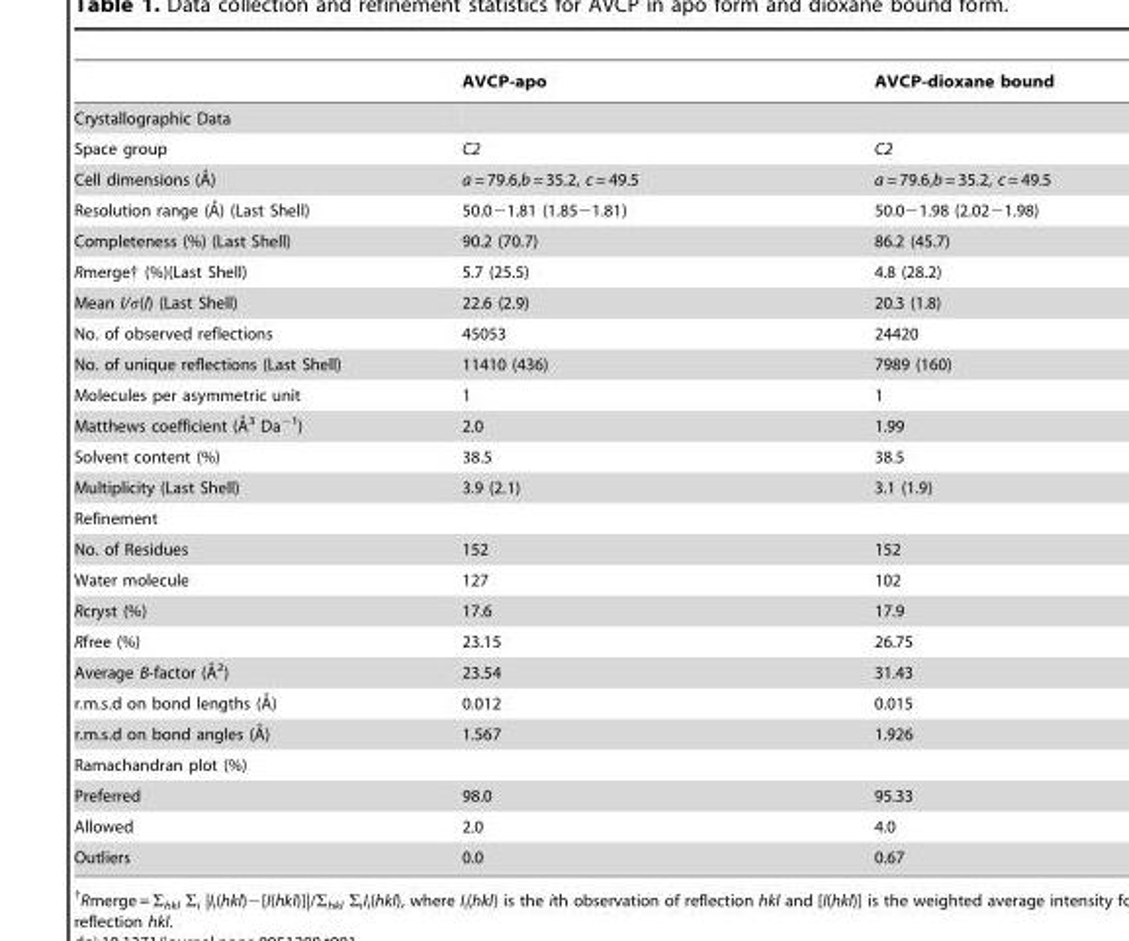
<table><thead><tr><td></td><td>AVCP-apo</td><td>AVCP-dioxane bound</td></tr></thead><tbody><tr><td colspan="3">Crystallographic Data</td></tr><tr><td>Space group</td><td>C2</td><td>C2</td></tr><tr><td>Cell dimensions (A˚)</td><td>a = 79.6,b = 35.2, c = 49.5</td><td>a = 79.6,b = 35.2, c = 49.5</td></tr><tr><td>Resolution range (A˚) (Last Shell)</td><td>50.0−1.81 (1.85−1.81)</td><td>50.0−1.98 (2.02−1.98)</td></tr><tr><td>Completeness (%) (Last Shell)</td><td>90.2 (70.7)</td><td>86.2 (45.7)</td></tr><tr><td>Rmerge† (%)(Last Shell)</td><td>5.7 (25.5)</td><td>4.8 (28.2)</td></tr><tr><td>Mean I/σ(I) (Last Shell)</td><td>22.6 (2.9)</td><td>20.3 (1.8)</td></tr><tr><td>No. of observed reflections</td><td>45053</td><td>24420</td></tr><tr><td>No. of unique reflections (Last Shell)</td><td>11410 (436)</td><td>7989 (160)</td></tr><tr><td>Molecules per asymmetric unit</td><td>1</td><td>1</td></tr><tr><td>Matthews coefficient (A˚ 3 Da21)</td><td>2.0</td><td>1.99</td></tr><tr><td>Solvent content (%)</td><td>38.5</td><td>38.5</td></tr><tr><td>Multiplicity (Last Shell)</td><td>3.9 (2.1)</td><td>3.1 (1.9)</td></tr><tr><td colspan="3">Refinement</td></tr><tr><td>No. of Residues</td><td>152</td><td>152</td></tr><tr><td>Water molecule</td><td>127</td><td>102</td></tr><tr><td>Rcryst (%)</td><td>17.6</td><td>17.9</td></tr><tr><td>Rfree (%)</td><td>23.15</td><td>26.75</td></tr><tr><td>Average B-factor (A˚ 2)</td><td>23.54</td><td>31.43</td></tr><tr><td>r.m.s.d on bond lengths (A˚)</td><td>0.012</td><td>0.015</td></tr><tr><td>r.m.s.d on bond angles (A˚)</td><td>1.567</td><td>1.926</td></tr><tr><td colspan="3">Ramachandran plot (%)</td></tr><tr><td>Preferred</td><td>98.0</td><td>95.33</td></tr><tr><td>Allowed</td><td>2.0</td><td>4.0</td></tr><tr><td>Outliers</td><td>0.0</td><td>0.67</td></tr></tbody></table>